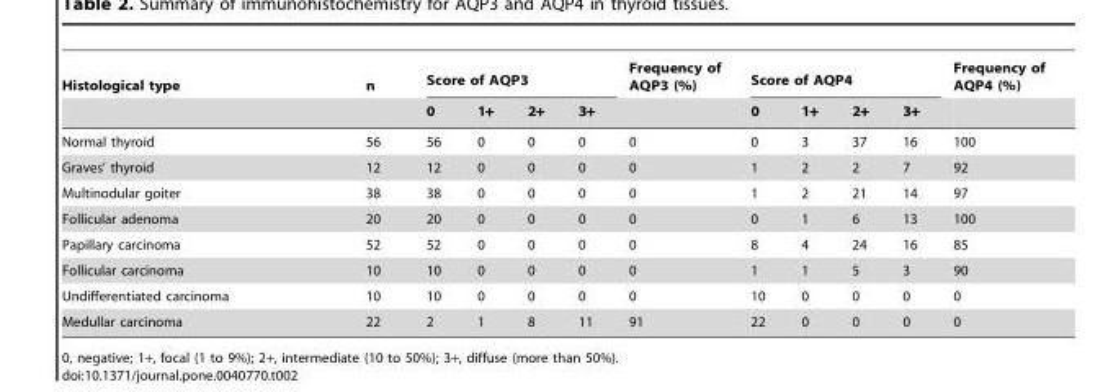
<table><thead><tr><td rowspan="2">Histological type</td><td rowspan="2">n</td><td colspan="4">Score of AQP3</td><td rowspan="2">Frequency of AQP3 (%)</td><td colspan="4">Score of AQP4</td><td rowspan="2">Frequency of AQP4 (%)</td></tr><tr><td>0</td><td>1+</td><td>2+</td><td>3+</td><td>0</td><td>1+</td><td>2+</td><td>3+</td></tr></thead><tbody><tr><td>Normal thyroid</td><td>56</td><td>56</td><td>0</td><td>0</td><td>0</td><td>0</td><td>0</td><td>3</td><td>37</td><td>16</td><td>100</td></tr><tr><td>Graves’ thyroid</td><td>12</td><td>12</td><td>0</td><td>0</td><td>0</td><td>0</td><td>1</td><td>2</td><td>2</td><td>7</td><td>92</td></tr><tr><td>Multinodular goiter</td><td>38</td><td>38</td><td>0</td><td>0</td><td>0</td><td>0</td><td>1</td><td>2</td><td>21</td><td>14</td><td>97</td></tr><tr><td>Follicular adenoma</td><td>20</td><td>20</td><td>0</td><td>0</td><td>0</td><td>0</td><td>0</td><td>1</td><td>6</td><td>13</td><td>100</td></tr><tr><td>Papillary carcinoma</td><td>52</td><td>52</td><td>0</td><td>0</td><td>0</td><td>0</td><td>8</td><td>4</td><td>24</td><td>16</td><td>85</td></tr><tr><td>Follicular carcinoma</td><td>10</td><td>10</td><td>0</td><td>0</td><td>0</td><td>0</td><td>1</td><td>1</td><td>5</td><td>3</td><td>90</td></tr><tr><td>Undifferentiated carcinoma</td><td>10</td><td>10</td><td>0</td><td>0</td><td>0</td><td>0</td><td>10</td><td>0</td><td>0</td><td>0</td><td>0</td></tr><tr><td>Medullar carcinoma</td><td>22</td><td>2</td><td>1</td><td>8</td><td>11</td><td>91</td><td>22</td><td>0</td><td>0</td><td>0</td><td>0</td></tr></tbody></table>